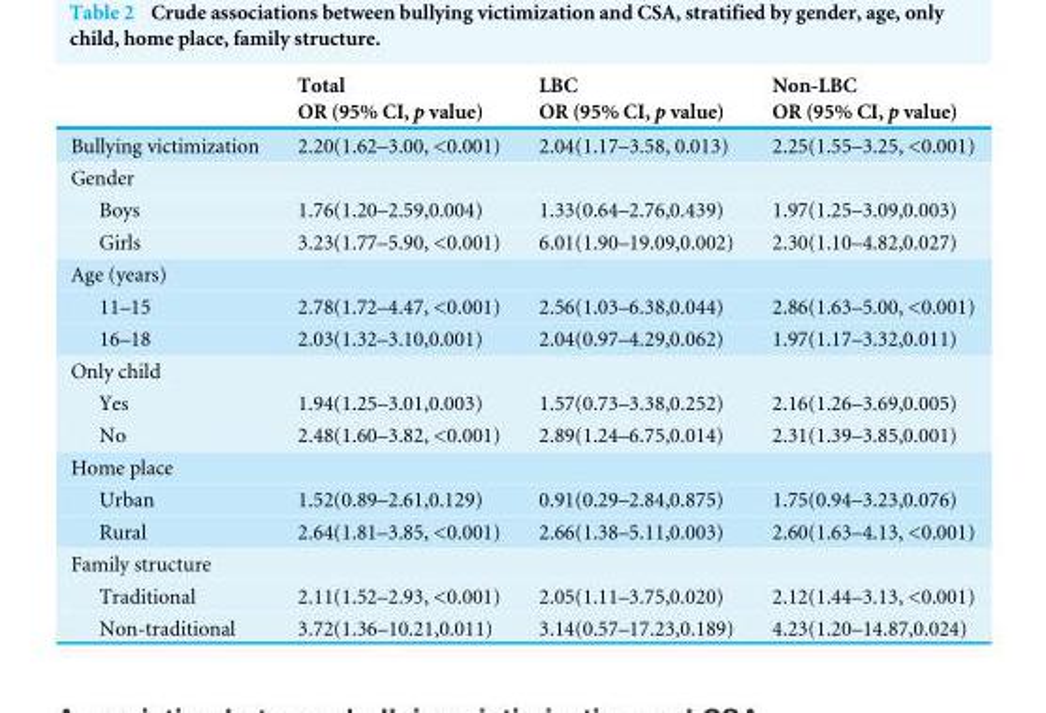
<table><thead><tr><td rowspan="2"></td><td rowspan="2">Total OR (95% CI, p value)</td><td rowspan="2">LBC OR (95% CI, p value)</td><td rowspan="2">Non-LBC OR (95% CI, p value)</td></tr><tr></tr></thead><tbody><tr><td>Bullying victimization</td><td>2.20(1.62–3.00, &lt;0.001)</td><td>2.04(1.17–3.58, 0.013)</td><td>2.25(1.55–3.25, &lt;0.001)</td></tr><tr><td colspan="4">Gender</td></tr><tr><td>Boys</td><td>1.76(1.20–2.59,0.004)</td><td>1.33(0.64–2.76,0.439)</td><td>1.97(1.25–3.09,0.003)</td></tr><tr><td>Girls</td><td>3.23(1.77–5.90, &lt;0.001)</td><td>6.01(1.90–19.09,0.002)</td><td>2.30(1.10–4.82,0.027)</td></tr><tr><td colspan="4">Age (years)</td></tr><tr><td>11–15</td><td>2.78(1.72–4.47, &lt;0.001)</td><td>2.56(1.03–6.38,0.044)</td><td>2.86(1.63–5.00, &lt;0.001)</td></tr><tr><td>16–18</td><td>2.03(1.32–3.10,0.001)</td><td>2.04(0.97–4.29,0.062)</td><td>1.97(1.17–3.32,0.011)</td></tr><tr><td colspan="4">Only child</td></tr><tr><td>Yes</td><td>1.94(1.25–3.01,0.003)</td><td>1.57(0.73–3.38,0.252)</td><td>2.16(1.26–3.69,0.005)</td></tr><tr><td>No</td><td>2.48(1.60–3.82, &lt;0.001)</td><td>2.89(1.24–6.75,0.014)</td><td>2.31(1.39–3.85,0.001)</td></tr><tr><td colspan="4">Home place</td></tr><tr><td>Urban</td><td>1.52(0.89–2.61,0.129)</td><td>0.91(0.29–2.84,0.875)</td><td>1.75(0.94–3.23,0.076)</td></tr><tr><td>Rural</td><td>2.64(1.81–3.85, &lt;0.001)</td><td>2.66(1.38–5.11,0.003)</td><td>2.60(1.63–4.13, &lt;0.001)</td></tr><tr><td colspan="4">Family structure</td></tr><tr><td>Traditional</td><td>2.11(1.52–2.93, &lt;0.001)</td><td>2.05(1.11–3.75,0.020)</td><td>2.12(1.44–3.13, &lt;0.001)</td></tr><tr><td>Non-traditional</td><td>3.72(1.36–10.21,0.011)</td><td>3.14(0.57–17.23,0.189)</td><td>4.23(1.20–14.87,0.024)</td></tr></tbody></table>